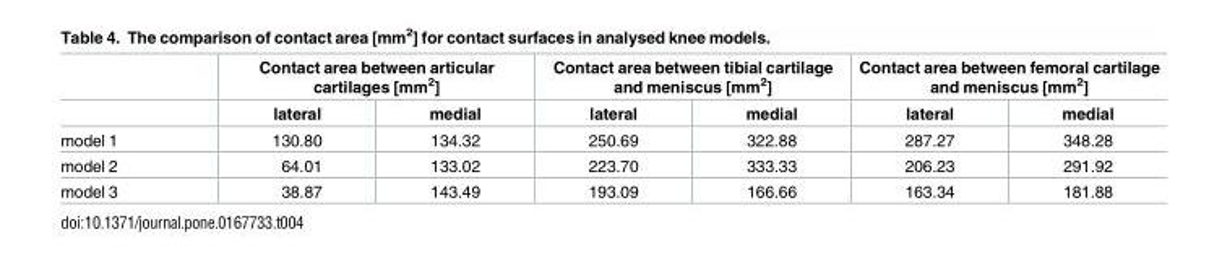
<table><thead><tr><td rowspan="2"></td><td colspan="2">Contact area between articular cartilages [mm<sup>2</sup>]</td><td colspan="2">Contact area between tibial cartilage and meniscus [mm<sup>2</sup>]</td><td colspan="2">Contact area between femoral cartilage and meniscus [mm<sup>2</sup>]</td></tr><tr><td>lateral</td><td>medial</td><td>lateral</td><td>medial</td><td>lateral</td><td>medial</td></tr></thead><tbody><tr><td>model 1</td><td>130.80</td><td>134.32</td><td>250.69</td><td>322.88</td><td>287.27</td><td>348.28</td></tr><tr><td>model 2</td><td>64.01</td><td>133.02</td><td>223.70</td><td>333.33</td><td>206.23</td><td>291.92</td></tr><tr><td>model 3</td><td>38.87</td><td>143.49</td><td>193.09</td><td>166.66</td><td>163.34</td><td>181.88</td></tr></tbody></table>